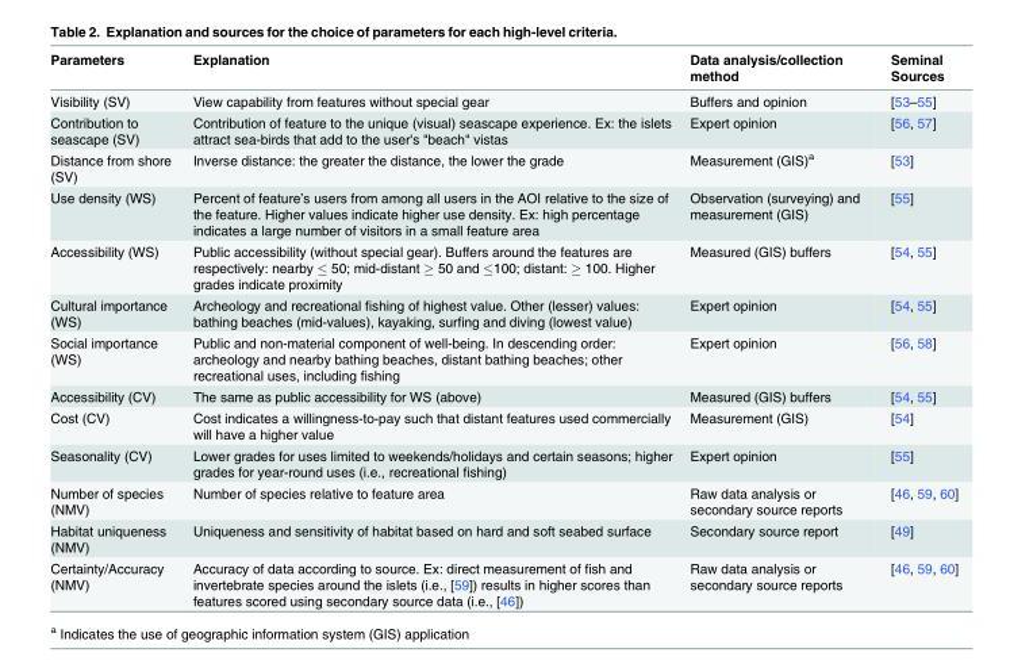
<table><thead><tr><td>Parameters</td><td>Explanation</td><td>Data analysis/collection method</td><td>Seminal Sources</td></tr></thead><tbody><tr><td>Visibility (SV)</td><td>View capability from features without special gear</td><td>Buffers and opinion</td><td>[53–55]</td></tr><tr><td>Contribution to seascape (SV)</td><td>Contribution of feature to the unique (visual) seascape experience. Ex: the islets attract sea-birds that add to the user&#x27;s &quot;beach&quot; vistas</td><td>Expert opinion</td><td>[56, 57]</td></tr><tr><td>Distance from shore (SV)</td><td>Inverse distance: the greater the distance, the lower the grade</td><td>Measurement (GIS)<sup>a</sup></td><td>[53]</td></tr><tr><td>Use density (WS)</td><td>Percent of feature’s users from among all users in the AOI relative to the size of the feature. Higher values indicate higher use density. Ex: high percentage indicates a large number of visitors in a small feature area</td><td>Observation (surveying) and measurement (GIS)</td><td>[55]</td></tr><tr><td>Accessibility (WS)</td><td>Public accessibility (without special gear). Buffers around the features are respectively: nearby ≤ 50; mid-distant ≥ 50 and ≤100; distant: ≥ 100. Higher grades indicate proximity</td><td>Measured (GIS) buffers</td><td>[54, 55]</td></tr><tr><td>Cultural importance (WS)</td><td>Archeology and recreational fishing of highest value. Other (lesser) values: bathing beaches (mid-values), kayaking, surfing and diving (lowest value)</td><td>Expert opinion</td><td>[54, 55]</td></tr><tr><td>Social importance (WS)</td><td>Public and non-material component of well-being. In descending order: archeology and nearby bathing beaches, distant bathing beaches; other recreational uses, including fishing</td><td>Expert opinion</td><td>[56, 58]</td></tr><tr><td>Accessibility (CV)</td><td>The same as public accessibility for WS (above)</td><td>Measured (GIS) buffers</td><td>[54, 55]</td></tr><tr><td>Cost (CV)</td><td>Cost indicates a willingness-to-pay such that distant features used commercially will have a higher value</td><td>Measurement (GIS)</td><td>[54]</td></tr><tr><td>Seasonality (CV)</td><td>Lower grades for uses limited to weekends/holidays and certain seasons; higher grades for year-round uses (i.e., recreational fishing)</td><td>Expert opinion</td><td>[55]</td></tr><tr><td>Number of species (NMV)</td><td>Number of species relative to feature area</td><td>Raw data analysis or secondary source reports</td><td>[46, 59, 60]</td></tr><tr><td>Habitat uniqueness (NMV)</td><td>Uniqueness and sensitivity of habitat based on hard and soft seabed surface</td><td>Secondary source report</td><td>[49]</td></tr><tr><td>Certainty/Accuracy (NMV)</td><td>Accuracy of data according to source. Ex: direct measurement of fish and invertebrate species around the islets (i.e., [59]) results in higher scores than features scored using secondary source data (i.e., [46])</td><td>Raw data analysis or secondary source reports</td><td>[46, 59, 60]</td></tr></tbody></table>